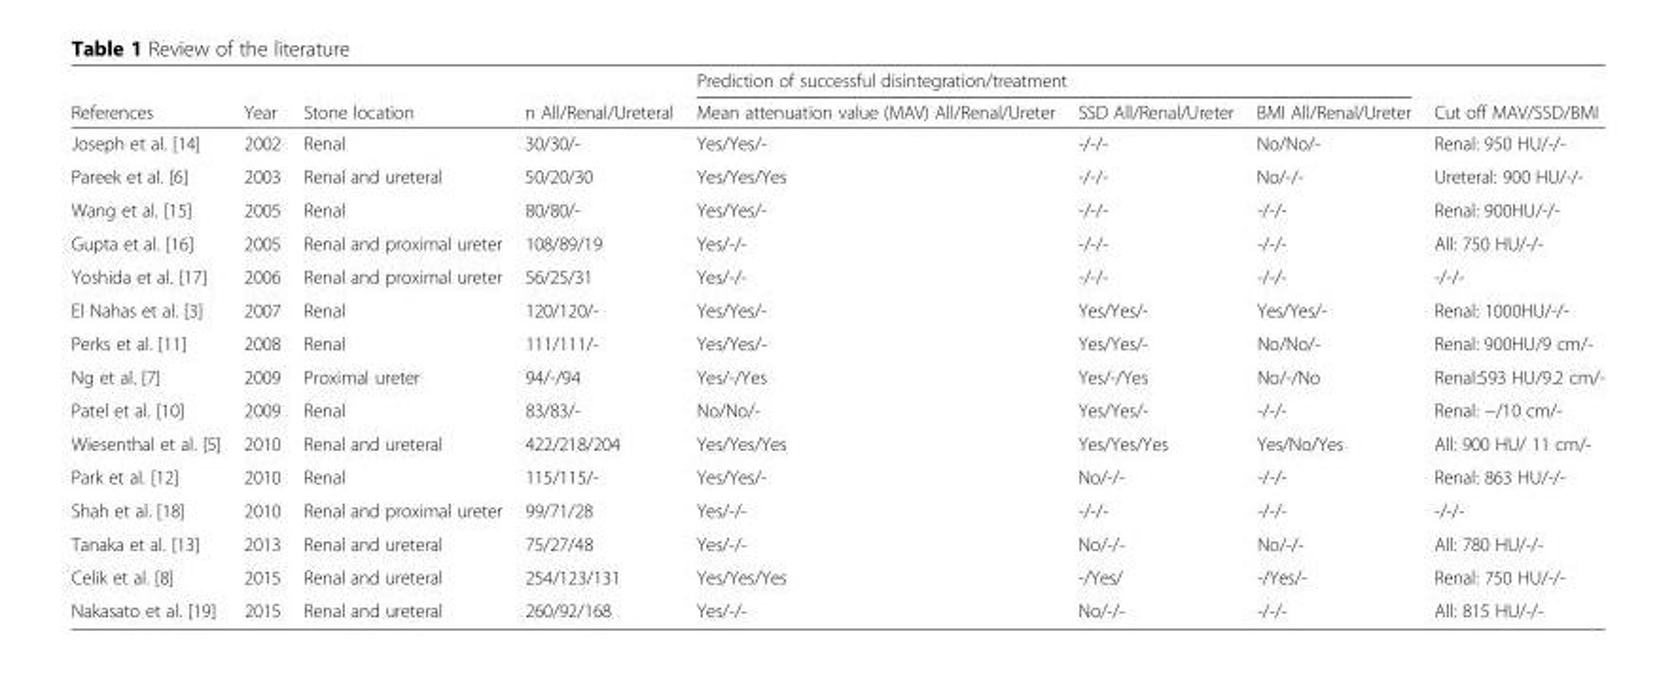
<table><thead><tr><td rowspan="2">References</td><td rowspan="2">Year</td><td rowspan="2">Stone location</td><td rowspan="2">n All/Renal/Ureteral</td><td colspan="3">Prediction of successful disintegration/treatment</td><td rowspan="2">Cut off MAV/SSD/BMI</td></tr><tr><td>Mean attenuation value (MAV) All/Renal/Ureter</td><td>SSD All/Renal/Ureter</td><td>BMI All/Renal/Ureter</td></tr></thead><tbody><tr><td>Joseph et al. [14]</td><td>2002</td><td>Renal</td><td>30/30/-</td><td>Yes/Yes/-</td><td>-/-/-</td><td>No/No/-</td><td>Renal: 950 HU/-/-</td></tr><tr><td>Pareek et al. [6]</td><td>2003</td><td>Renal and ureteral</td><td>50/20/30</td><td>Yes/Yes/Yes</td><td>-/-/-</td><td>No/-/-</td><td>Ureteral: 900 HU/-/-</td></tr><tr><td>Wang et al. [15]</td><td>2005</td><td>Renal</td><td>80/80/-</td><td>Yes/Yes/-</td><td>-/-/-</td><td>-/-/-</td><td>Renal: 900HU/-/-</td></tr><tr><td>Gupta et al. [16]</td><td>2005</td><td>Renal and proximal ureter</td><td>108/89/19</td><td>Yes/-/-</td><td>-/-/-</td><td>-/-/-</td><td>All: 750 HU/-/-</td></tr><tr><td>Yoshida et al. [17]</td><td>2006</td><td>Renal and proximal ureter</td><td>56/25/31</td><td>Yes/-/-</td><td>-/-/-</td><td>-/-/-</td><td>-/-/-</td></tr><tr><td>El Nahas et al. [3]</td><td>2007</td><td>Renal</td><td>120/120/-</td><td>Yes/Yes/-</td><td>Yes/Yes/-</td><td>Yes/Yes/-</td><td>Renal: 1000HU/-/-</td></tr><tr><td>Perks et al. [11]</td><td>2008</td><td>Renal</td><td>111/111/-</td><td>Yes/Yes/-</td><td>Yes/Yes/-</td><td>No/No/-</td><td>Renal: 900HU/9 cm/-</td></tr><tr><td>Ng et al. [7]</td><td>2009</td><td>Proximal ureter</td><td>94/-/94</td><td>Yes/-/Yes</td><td>Yes/-/Yes</td><td>No/-/No</td><td>Renal:593 HU/9.2 cm/-</td></tr><tr><td>Patel et al. [10]</td><td>2009</td><td>Renal</td><td>83/83/-</td><td>No/No/-</td><td>Yes/Yes/-</td><td>-/-/-</td><td>Renal: −/10 cm/-</td></tr><tr><td>Wiesenthal et al. [5]</td><td>2010</td><td>Renal and ureteral</td><td>422/218/204</td><td>Yes/Yes/Yes</td><td>Yes/Yes/Yes</td><td>Yes/No/Yes</td><td>All: 900 HU/ 11 cm/-</td></tr><tr><td>Park et al. [12]</td><td>2010</td><td>Renal</td><td>115/115/-</td><td>Yes/Yes/-</td><td>No/-/-</td><td>-/-/-</td><td>Renal: 863 HU/-/-</td></tr><tr><td>Shah et al. [18]</td><td>2010</td><td>Renal and proximal ureter</td><td>99/71/28</td><td>Yes/-/-</td><td>-/-/-</td><td>-/-/-</td><td>-/-/-</td></tr><tr><td>Tanaka et al. [13]</td><td>2013</td><td>Renal and ureteral</td><td>75/27/48</td><td>Yes/-/-</td><td>No/-/-</td><td>No/-/-</td><td>All: 780 HU/-/-</td></tr><tr><td>Celik et al. [8]</td><td>2015</td><td>Renal and ureteral</td><td>254/123/131</td><td>Yes/Yes/Yes</td><td>-/Yes/</td><td>-/Yes/-</td><td>Renal: 750 HU/-/-</td></tr><tr><td>Nakasato et al. [19]</td><td>2015</td><td>Renal and ureteral</td><td>260/92/168</td><td>Yes/-/-</td><td>No/-/-</td><td>-/-/-</td><td>All: 815 HU/-/-</td></tr></tbody></table>